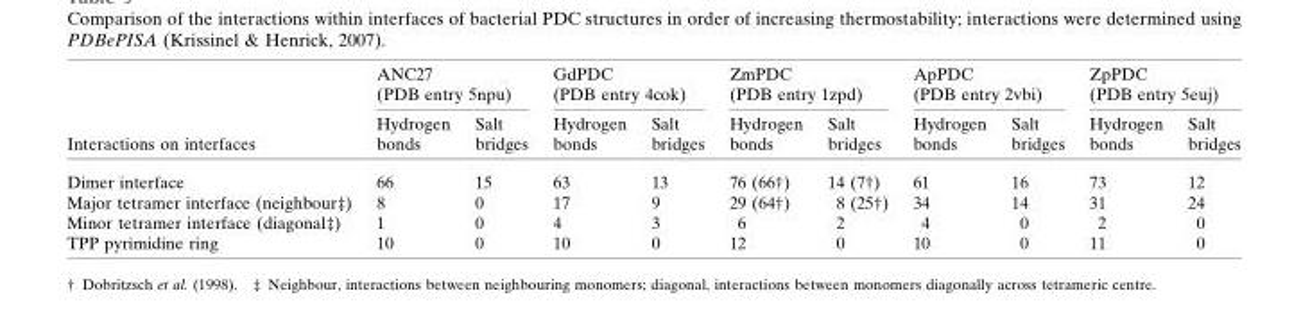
<table><thead><tr><td rowspan="2">Interactions on interfaces</td><td colspan="2">ANC27 (PDB entry 5npu)</td><td colspan="2">GdPDC (PDB entry 4cok)</td><td colspan="2">ZmPDC (PDB entry 1zpd)</td><td colspan="2">ApPDC (PDB entry 2vbi)</td><td colspan="2">ZpPDC (PDB entry 5euj)</td></tr><tr><td>Hydrogen bonds</td><td>Salt bridges</td><td>Hydrogen bonds</td><td>Salt bridges</td><td>Hydrogen bonds</td><td>Salt bridges</td><td>Hydrogen bonds</td><td>Salt bridges</td><td>Hydrogen bonds</td><td>Salt bridges</td></tr></thead><tbody><tr><td>Dimer interface</td><td>66</td><td>15</td><td>63</td><td>13</td><td>76 (66†)</td><td>14 (7†)</td><td>61</td><td>16</td><td>73</td><td>12</td></tr><tr><td>Major tetramer interface (neighbour‡)</td><td>8</td><td>0</td><td>17</td><td>9</td><td>29 (64†)</td><td>8 (25†)</td><td>34</td><td>14</td><td>31</td><td>24</td></tr><tr><td>Minor tetramer interface (diagonal‡)</td><td>1</td><td>0</td><td>4</td><td>3</td><td>6</td><td>2</td><td>4</td><td>0</td><td>2</td><td>0</td></tr><tr><td>TPP pyrimidine ring</td><td>10</td><td>0</td><td>10</td><td>0</td><td>12</td><td>0</td><td>10</td><td>0</td><td>11</td><td>0</td></tr></tbody></table>